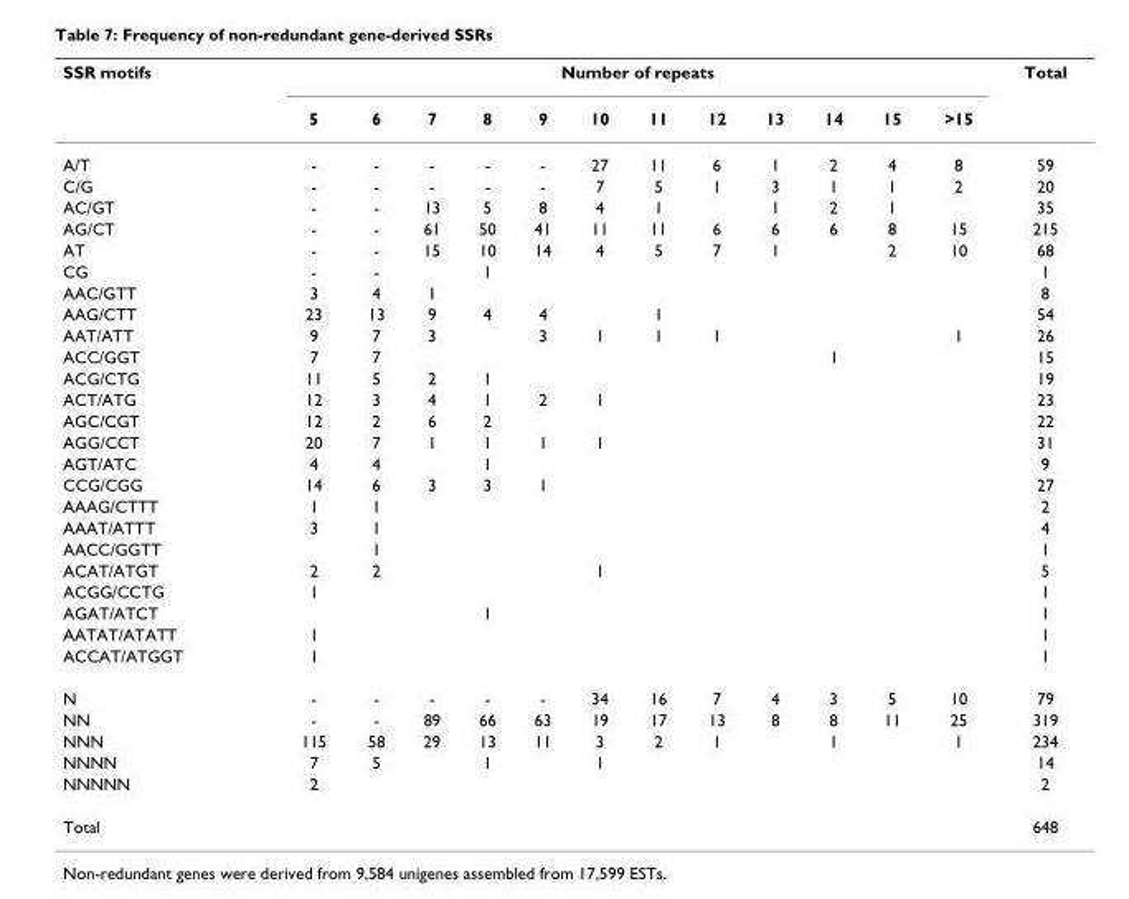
<table><thead><tr><td rowspan="2">SSR motifs</td><td colspan="12">Number of repeats</td><td rowspan="2">Total</td></tr><tr><td>5</td><td>6</td><td>7</td><td>8</td><td>9</td><td>10</td><td>11</td><td>12</td><td>13</td><td>14</td><td>15</td><td>&gt;15</td></tr></thead><tbody><tr><td>A/T</td><td>-</td><td>-</td><td>-</td><td>-</td><td>-</td><td>27</td><td>11</td><td>6</td><td>1</td><td>2</td><td>4</td><td>8</td><td>59</td></tr><tr><td>C/G</td><td>-</td><td>-</td><td>-</td><td>-</td><td>-</td><td>7</td><td>5</td><td>1</td><td>3</td><td>1</td><td>1</td><td>2</td><td>20</td></tr><tr><td>AC/GT</td><td>-</td><td>-</td><td>13</td><td>5</td><td>8</td><td>4</td><td>1</td><td></td><td>1</td><td>2</td><td>1</td><td></td><td>35</td></tr><tr><td>AG/CT</td><td>-</td><td>-</td><td>61</td><td>50</td><td>41</td><td>11</td><td>11</td><td>6</td><td>6</td><td>6</td><td>8</td><td>15</td><td>215</td></tr><tr><td>AT</td><td>-</td><td>-</td><td>15</td><td>10</td><td>14</td><td>4</td><td>5</td><td>7</td><td>1</td><td></td><td>2</td><td>10</td><td>68</td></tr><tr><td>CG</td><td>-</td><td>-</td><td></td><td>1</td><td></td><td></td><td></td><td></td><td></td><td></td><td></td><td></td><td>1</td></tr><tr><td>AAC/GTT</td><td>3</td><td>4</td><td>1</td><td></td><td></td><td></td><td></td><td></td><td></td><td></td><td></td><td></td><td>8</td></tr><tr><td>AAG/CTT</td><td>23</td><td>13</td><td>9</td><td>4</td><td>4</td><td></td><td>1</td><td></td><td></td><td></td><td></td><td></td><td>54</td></tr><tr><td>AAT/ATT</td><td>9</td><td>7</td><td>3</td><td></td><td>3</td><td>1</td><td>1</td><td>1</td><td></td><td></td><td></td><td>1</td><td>26</td></tr><tr><td>ACC/GGT</td><td>7</td><td>7</td><td></td><td></td><td></td><td></td><td></td><td></td><td></td><td>1</td><td></td><td></td><td>15</td></tr><tr><td>ACG/CTG</td><td>11</td><td>5</td><td>2</td><td>1</td><td></td><td></td><td></td><td></td><td></td><td></td><td></td><td></td><td>19</td></tr><tr><td>ACT/ATG</td><td>12</td><td>3</td><td>4</td><td>1</td><td>2</td><td>1</td><td></td><td></td><td></td><td></td><td></td><td></td><td>23</td></tr><tr><td>AGC/CGT</td><td>12</td><td>2</td><td>6</td><td>2</td><td></td><td></td><td></td><td></td><td></td><td></td><td></td><td></td><td>22</td></tr><tr><td>AGG/CCT</td><td>20</td><td>7</td><td>1</td><td>1</td><td>1</td><td>1</td><td></td><td></td><td></td><td></td><td></td><td></td><td>31</td></tr><tr><td>AGT/ATC</td><td>4</td><td>4</td><td></td><td>1</td><td></td><td></td><td></td><td></td><td></td><td></td><td></td><td></td><td>9</td></tr><tr><td>CCG/CGG</td><td>14</td><td>6</td><td>3</td><td>3</td><td>1</td><td></td><td></td><td></td><td></td><td></td><td></td><td></td><td>27</td></tr><tr><td>AAAG/CTTT</td><td>1</td><td>1</td><td></td><td></td><td></td><td></td><td></td><td></td><td></td><td></td><td></td><td></td><td>2</td></tr><tr><td>AAAT/ATTT</td><td>3</td><td>1</td><td></td><td></td><td></td><td></td><td></td><td></td><td></td><td></td><td></td><td></td><td>4</td></tr><tr><td>AACC/GGTT</td><td></td><td>1</td><td></td><td></td><td></td><td></td><td></td><td></td><td></td><td></td><td></td><td></td><td>1</td></tr><tr><td>ACAT/ATGT</td><td>2</td><td>2</td><td></td><td></td><td></td><td>1</td><td></td><td></td><td></td><td></td><td></td><td></td><td>5</td></tr><tr><td>ACGG/CCTG</td><td>1</td><td></td><td></td><td></td><td></td><td></td><td></td><td></td><td></td><td></td><td></td><td></td><td>1</td></tr><tr><td>AGAT/ATCT</td><td></td><td></td><td></td><td>1</td><td></td><td></td><td></td><td></td><td></td><td></td><td></td><td></td><td>1</td></tr><tr><td>AATAT/ATATT</td><td>1</td><td></td><td></td><td></td><td></td><td></td><td></td><td></td><td></td><td></td><td></td><td></td><td>1</td></tr><tr><td>ACCAT/ATGGT</td><td>1</td><td></td><td></td><td></td><td></td><td></td><td></td><td></td><td></td><td></td><td></td><td></td><td>1</td></tr><tr><td>N</td><td>-</td><td>-</td><td>-</td><td>-</td><td>-</td><td>34</td><td>16</td><td>7</td><td>4</td><td>3</td><td>5</td><td>10</td><td>79</td></tr><tr><td>NN</td><td>-</td><td>-</td><td>89</td><td>66</td><td>63</td><td>19</td><td>17</td><td>13</td><td>8</td><td>8</td><td>11</td><td>25</td><td>319</td></tr><tr><td>NNN</td><td>115</td><td>58</td><td>29</td><td>13</td><td>11</td><td>3</td><td>2</td><td>1</td><td></td><td>1</td><td></td><td>1</td><td>234</td></tr><tr><td>NNNN</td><td>7</td><td>5</td><td></td><td>1</td><td></td><td>1</td><td></td><td></td><td></td><td></td><td></td><td></td><td>14</td></tr><tr><td>NNNNN</td><td>2</td><td></td><td></td><td></td><td></td><td></td><td></td><td></td><td></td><td></td><td></td><td></td><td>2</td></tr><tr><td>Total</td><td></td><td></td><td></td><td></td><td></td><td></td><td></td><td></td><td></td><td></td><td></td><td></td><td>648</td></tr></tbody></table>